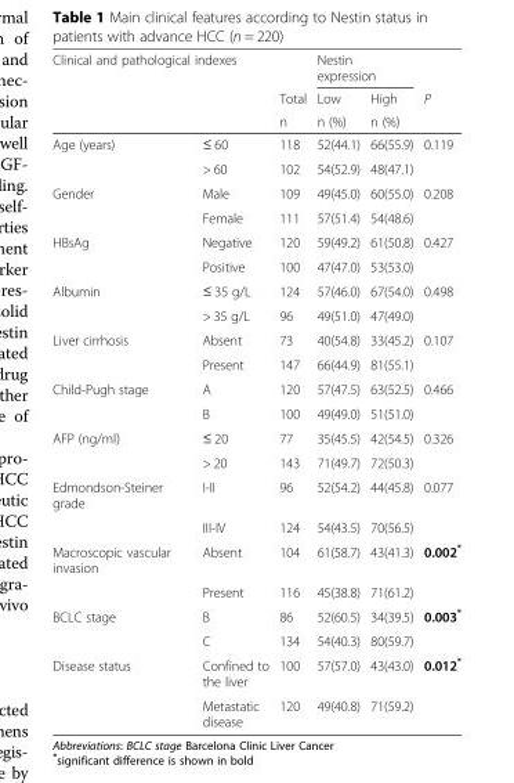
<table><thead><tr><td rowspan="3" colspan="2">Clinical and pathological indexes</td><td rowspan="4">Total n 118</td><td colspan="2">Nestin expression</td><td rowspan="4">P 0.119</td></tr><tr><td rowspan="3">Low n (%) 52(44.1)</td><td rowspan="3">High n (%) 66(55.9)</td></tr><tr></tr><tr><td>Age (years)</td><td>≤ 60</td></tr></thead><tbody><tr><td></td><td>&gt; 60</td><td>102</td><td>54(52.9)</td><td>48(47.1)</td><td></td></tr><tr><td rowspan="2">Gender</td><td>Male</td><td>109</td><td>49(45.0)</td><td>60(55.0)</td><td>0.208</td></tr><tr><td>Female</td><td>111</td><td>57(51.4)</td><td>54(48.6)</td><td></td></tr><tr><td rowspan="2">HBsAg</td><td>Negative</td><td>120</td><td>59(49.2)</td><td>61(50.8)</td><td>0.427</td></tr><tr><td>Positive</td><td>100</td><td>47(47.0)</td><td>53(53.0)</td><td></td></tr><tr><td rowspan="2">Albumin</td><td>≤ 35 g/L</td><td>124</td><td>57(46.0)</td><td>67(54.0)</td><td>0.498</td></tr><tr><td>&gt; 35 g/L</td><td>96</td><td>49(51.0)</td><td>47(49.0)</td><td></td></tr><tr><td rowspan="2">Liver cirrhosis</td><td>Absent</td><td>73</td><td>40(54.8)</td><td>33(45.2)</td><td>0.107</td></tr><tr><td>Present</td><td>147</td><td>66(44.9)</td><td>81(55.1)</td><td></td></tr><tr><td rowspan="2">Child-Pugh stage</td><td>A</td><td>120</td><td>57(47.5)</td><td>63(52.5)</td><td>0.466</td></tr><tr><td>B</td><td>100</td><td>49(49.0)</td><td>51(51.0)</td><td></td></tr><tr><td rowspan="2">AFP (ng/ml)</td><td>≤ 20</td><td>77</td><td>35(45.5)</td><td>42(54.5)</td><td>0.326</td></tr><tr><td>&gt; 20</td><td>143</td><td>71(49.7)</td><td>72(50.3)</td><td></td></tr><tr><td rowspan="2">Edmondson-Steiner grade</td><td>I-II</td><td>96</td><td>52(54.2)</td><td>44(45.8)</td><td>0.077</td></tr><tr><td>III-IV</td><td>124</td><td>54(43.5)</td><td>70(56.5)</td><td></td></tr><tr><td rowspan="2">Macroscopic vascular invasion</td><td>Absent</td><td>104</td><td>61(58.7)</td><td>43(41.3)</td><td>0.002*</td></tr><tr><td>Present</td><td>116</td><td>45(38.8)</td><td>71(61.2)</td><td></td></tr><tr><td rowspan="2">BCLC stage</td><td>B</td><td>86</td><td>52(60.5)</td><td>34(39.5)</td><td>0.003*</td></tr><tr><td>C</td><td>134</td><td>54(40.3)</td><td>80(59.7)</td><td></td></tr><tr><td rowspan="2">Disease status</td><td>Confined to the liver</td><td>100</td><td>57(57.0)</td><td>43(43.0)</td><td>0.012*</td></tr><tr><td>Metastatic disease</td><td>120</td><td>49(40.8)</td><td>71(59.2)</td><td></td></tr></tbody></table>